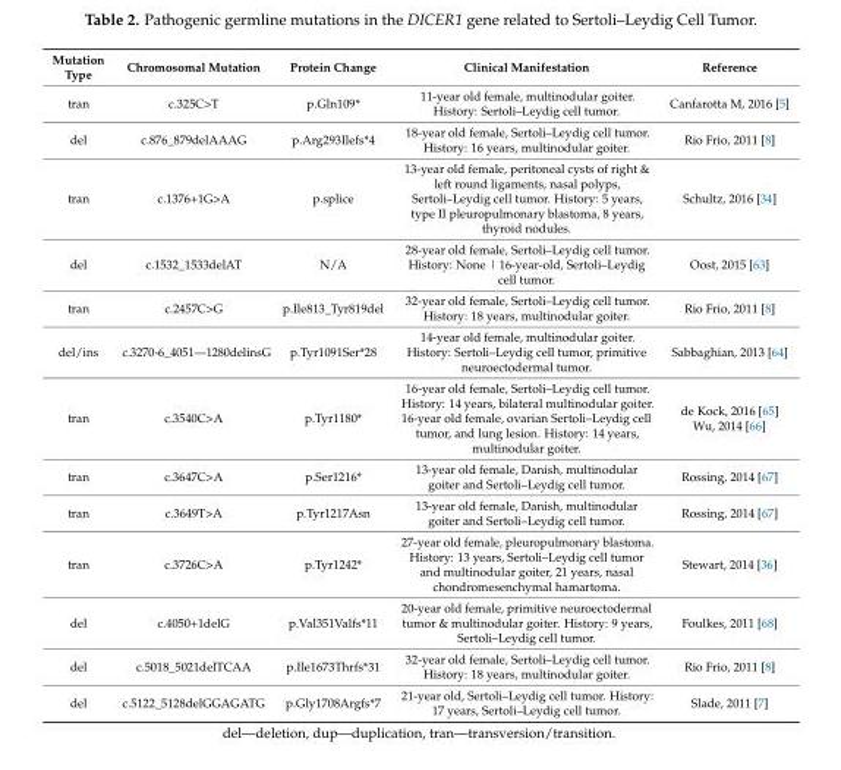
<table><thead><tr><td>Mutation Type</td><td>Chromosomal Mutation</td><td>Protein Change</td><td>Clinical Manifestation</td><td>Reference</td></tr></thead><tbody><tr><td>tran</td><td>c.325C&gt;T</td><td>p.Gln109*</td><td>11-year old female, multinodular goiter. History: Sertoli–Leydig cell tumor.</td><td>Canfarotta M, 2016 [5]</td></tr><tr><td>del</td><td>c.876_879delAAAG</td><td>p.Arg293Ilefs*4</td><td>18-year old female, Sertoli–Leydig cell tumor. History: 16 years, multinodular goiter.</td><td>Rio Frio, 2011 [8]</td></tr><tr><td>tran</td><td>c.1376+1G&gt;A</td><td>p.splice</td><td>13-year old female, peritoneal cysts of right &amp; left round ligaments, nasal polyps, Sertoli–Leydig cell tumor. History: 5 years, type II pleuropulmonary blastoma, 8 years, thyroid nodules.</td><td>Schultz, 2016 [34]</td></tr><tr><td>del</td><td>c.1532_1533delAT</td><td>N/A</td><td>28-year old female, Sertoli–Leydig cell tumor. History: None | 16-year-old, Sertoli–Leydig cell tumor.</td><td>Oost, 2015 [63]</td></tr><tr><td>tran</td><td>c.2457C&gt;G</td><td>p.Ile813_Tyr819del</td><td>32-year old female, Sertoli–Leydig cell tumor. History: 18 years, multinodular goiter.</td><td>Rio Frio, 2011 [8]</td></tr><tr><td>del/ins</td><td>c.3270-6_4051—1280delinsG</td><td>p.Tyr1091Ser*28</td><td>14-year old female, multinodular goiter. History: Sertoli–Leydig cell tumor, primitive neuroectodermal tumor.</td><td>Sabbaghian, 2013 [64]</td></tr><tr><td>tran</td><td>c.3540C&gt;A</td><td>p.Tyr1180*</td><td>16-year old female, Sertoli–Leydig cell tumor. History: 14 years, bilateral multinodular goiter. 16-year old female, ovarian Sertoli–Leydig cell tumor, and lung lesion. History: 14 years, multinodular goiter.</td><td>de Kock, 2016 [65] Wu, 2014 [66]</td></tr><tr><td>tran</td><td>c.3647C&gt;A</td><td>p.Ser1216*</td><td>13-year old female, Danish, multinodular goiter and Sertoli–Leydig cell tumor.</td><td>Rossing, 2014 [67]</td></tr><tr><td>tran</td><td>c.3649T&gt;A</td><td>p.Tyr1217Asn</td><td>13-year old female, Danish, multinodular goiter and Sertoli–Leydig cell tumor.</td><td>Rossing, 2014 [67]</td></tr><tr><td>tran</td><td>c.3726C&gt;A</td><td>p.Tyr1242*</td><td>27-year old female, pleuropulmonary blastoma. History: 13 years, Sertoli–Leydig cell tumor and multinodular goiter, 21 years, nasal chondromesenchymal hamartoma.</td><td>Stewart, 2014 [36]</td></tr><tr><td>del</td><td>c.4050+1delG</td><td>p.Val351Valfs*11</td><td>20-year old female, primitive neuroectodermal tumor &amp; multinodular goiter. History: 9 years, Sertoli–Leydig cell tumor.</td><td>Foulkes, 2011 [68]</td></tr><tr><td>del</td><td>c.5018_5021delTCAA</td><td>p.Ile1673Thrfs*31</td><td>32-year old female, Sertoli–Leydig cell tumor. History: 18 years, multinodular goiter.</td><td>Rio Frio, 2011 [8]</td></tr><tr><td>del</td><td>c.5122_5128delGGAGATG</td><td>p.Gly1708Argfs*7</td><td>21-year old, Sertoli–Leydig cell tumor. History: 17 years, Sertoli–Leydig cell tumor.</td><td>Slade, 2011 [7]</td></tr></tbody></table>